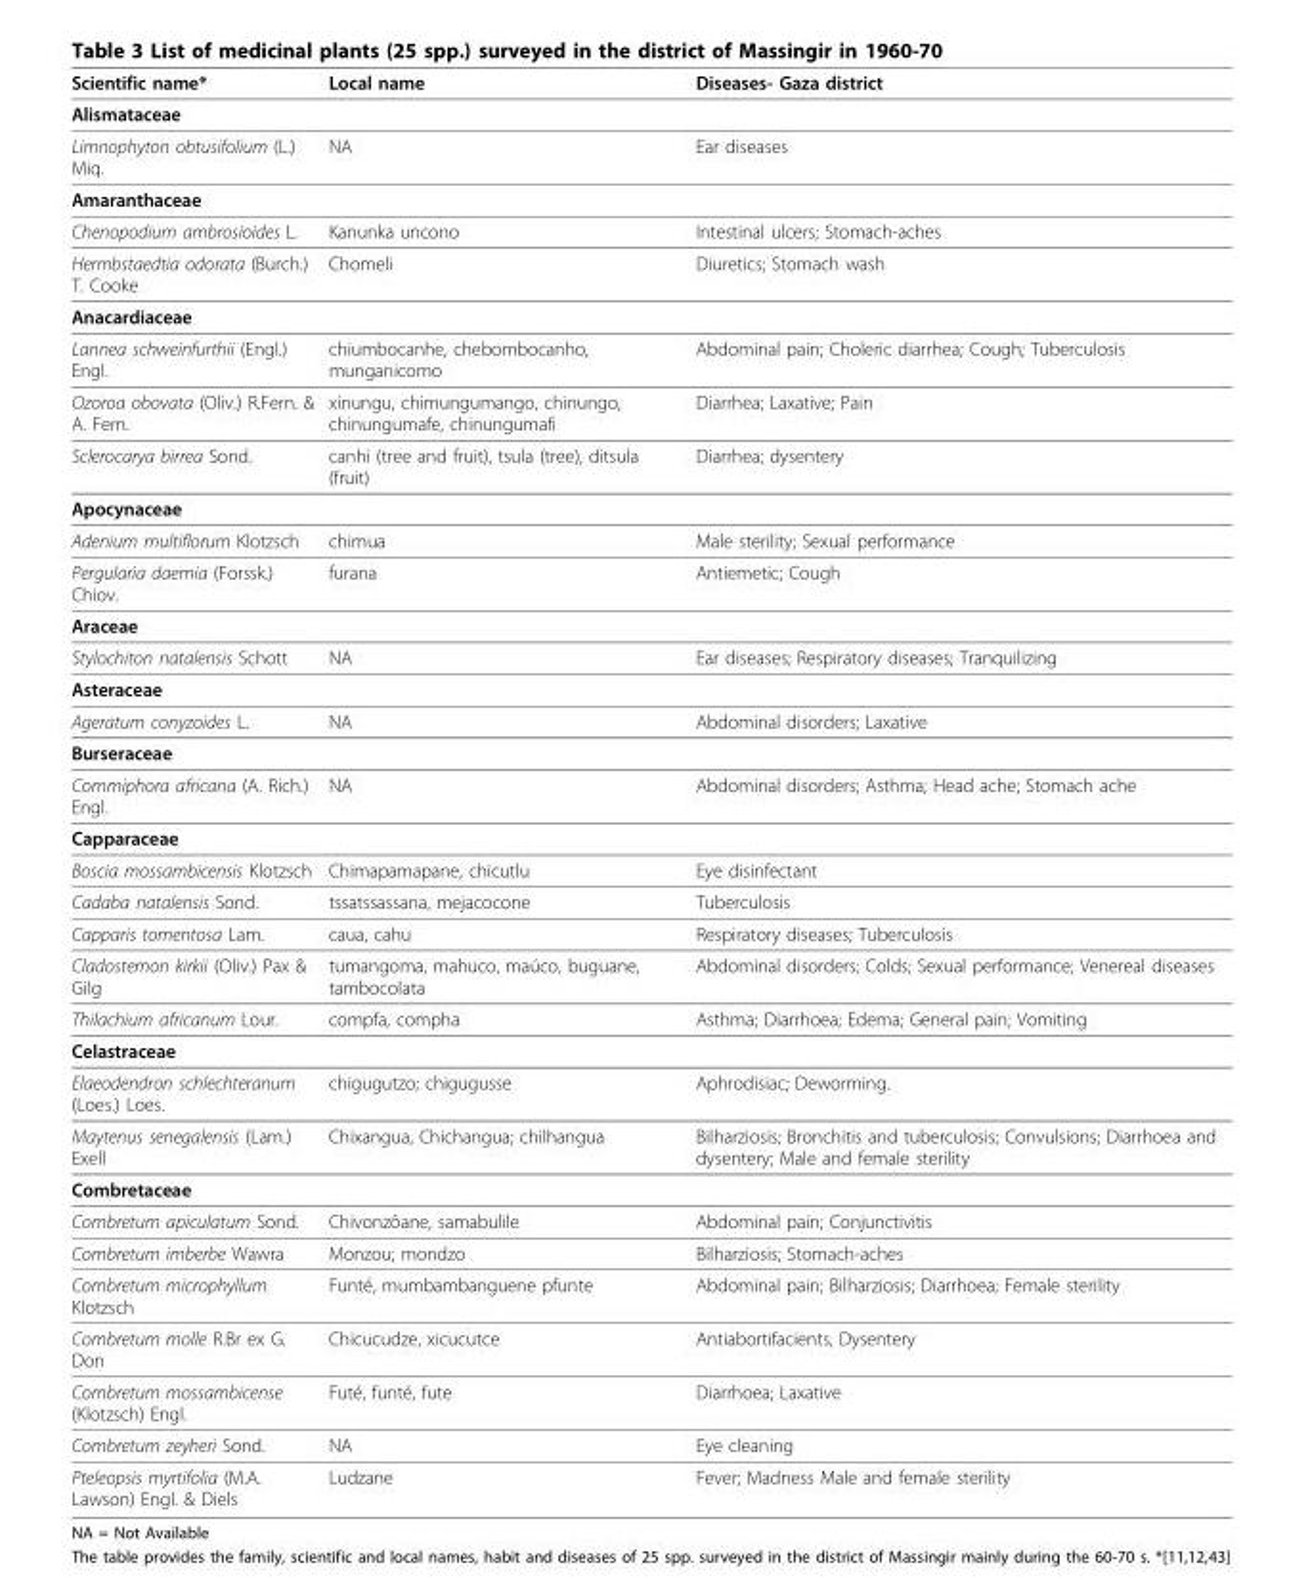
<table><thead><tr><td>Scientific name*</td><td>Local name</td><td>Diseases- Gaza district</td></tr></thead><tbody><tr><td colspan="3">Alismataceae</td></tr><tr><td>Limnophyton obtusifolium (L.) Miq.</td><td>NA</td><td>Ear diseases</td></tr><tr><td colspan="3">Amaranthaceae</td></tr><tr><td>Chenopodium ambrosioides L.</td><td>Kanunka uncono</td><td>Intestinal ulcers; Stomach-aches</td></tr><tr><td>Hermbstaedtia odorata (Burch.) T. Cooke</td><td>Chomeli</td><td>Diuretics; Stomach wash</td></tr><tr><td colspan="3">Anacardiaceae</td></tr><tr><td>Lannea schweinfurthii (Engl.) Engl.</td><td>chiumbocanhe, chebombocanho, munganicomo</td><td>Abdominal pain; Choleric diarrhea; Cough; Tuberculosis</td></tr><tr><td>Ozoroa obovata (Oliv.) R.Fern. &amp; A. Fern.</td><td>xinungu, chimungumango, chinungo, chinungumafe, chinungumafi</td><td>Diarrhea; Laxative; Pain</td></tr><tr><td>Sclerocarya birrea Sond.</td><td>canhi (tree and fruit), tsula (tree), ditsula (fruit)</td><td>Diarrhea; dysentery</td></tr><tr><td colspan="3">Apocynaceae</td></tr><tr><td>Adenium multiflorum Klotzsch</td><td>chimua</td><td>Male sterility; Sexual performance</td></tr><tr><td>Pergularia daemia (Forssk.) Chiov.</td><td>furana</td><td>Antiemetic; Cough</td></tr><tr><td colspan="3">Araceae</td></tr><tr><td>Stylochiton natalensis Schott</td><td>NA</td><td>Ear diseases; Respiratory diseases; Tranquilizing</td></tr><tr><td colspan="3">Asteraceae</td></tr><tr><td>Ageratum conyzoides L.</td><td>NA</td><td>Abdominal disorders; Laxative</td></tr><tr><td colspan="3">Burseraceae</td></tr><tr><td>Commiphora africana (A. Rich.) Engl.</td><td>NA</td><td>Abdominal disorders; Asthma; Head ache; Stomach ache</td></tr><tr><td colspan="3">Capparaceae</td></tr><tr><td>Boscia mossambicensis Klotzsch</td><td>Chimapamapane, chicutlu</td><td>Eye disinfectant</td></tr><tr><td>Cadaba natalensis Sond.</td><td>tssatssassana, mejacocone</td><td>Tuberculosis</td></tr><tr><td>Capparis tomentosa Lam.</td><td>caua, cahu</td><td>Respiratory diseases; Tuberculosis</td></tr><tr><td>Cladostemon kirkii (Oliv.) Pax &amp; Gilg</td><td>tumangoma, mahuco, maúco, buguane, tambocolata</td><td>Abdominal disorders; Colds; Sexual performance; Venereal diseases</td></tr><tr><td>Thilachium africanum Lour.</td><td>compfa, compha</td><td>Asthma; Diarrhoea; Edema; General pain; Vomiting</td></tr><tr><td colspan="3">Celastraceae</td></tr><tr><td>Elaeodendron schlechteranum (Loes.) Loes.</td><td>chigugutzo; chigugusse</td><td>Aphrodisiac; Deworming.</td></tr><tr><td>Maytenus senegalensis (Lam.) Exell</td><td>Chixangua, Chichangua; chilhangua</td><td>Bilharziosis; Bronchitis and tuberculosis; Convulsions; Diarrhoea and dysentery; Male and female sterility</td></tr><tr><td colspan="3">Combretaceae</td></tr><tr><td>Combretum apiculatum Sond.</td><td>Chivonzôane, samabulile</td><td>Abdominal pain; Conjunctivitis</td></tr><tr><td>Combretum imberbe Wawra</td><td>Monzou; mondzo</td><td>Bilharziosis; Stomach-aches</td></tr><tr><td>Combretum microphyllum Klotzsch</td><td>Funté, mumbambanguene pfunte</td><td>Abdominal pain; Bilharziosis; Diarrhoea; Female sterility</td></tr><tr><td>Combretum molle R.Br ex G. Don</td><td>Chicucudze, xicucutce</td><td>Antiabortifacients, Dysentery</td></tr><tr><td>Combretum mossambicense (Klotzsch) Engl.</td><td>Futé, funté, fute</td><td>Diarrhoea; Laxative</td></tr><tr><td>Combretum zeyheri Sond.</td><td>NA</td><td>Eye cleaning</td></tr><tr><td>Pteleopsis myrtifolia (M.A. Lawson) Engl. &amp; Diels</td><td>Ludzane</td><td>Fever; Madness Male and female sterility</td></tr></tbody></table>